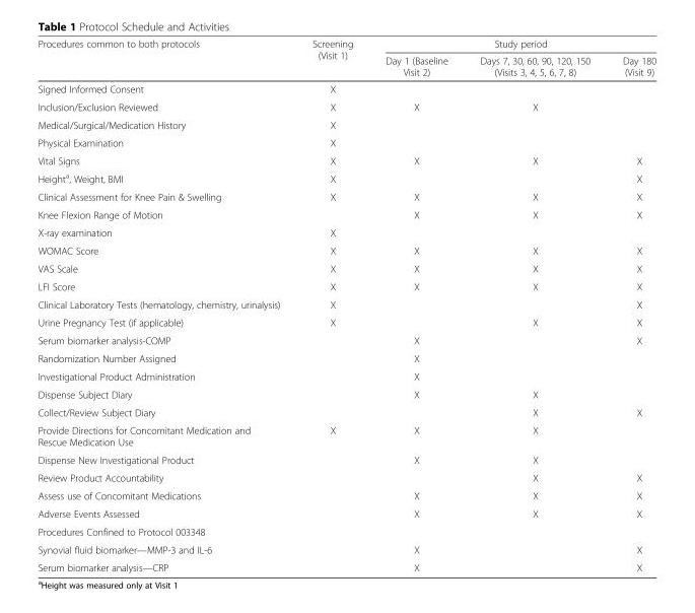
<table><thead><tr><td rowspan="2">Procedures common to both protocols</td><td rowspan="2">Screening (Visit 1)</td><td colspan="3">Study period</td></tr><tr><td>Day 1 (Baseline Visit 2)</td><td>Days 7, 30, 60, 90, 120, 150 (Visits 3, 4, 5, 6, 7, 8)</td><td>Day 180 (Visit 9)</td></tr></thead><tbody><tr><td>Signed Informed Consent</td><td>X</td><td></td><td></td><td></td></tr><tr><td>Inclusion/Exclusion Reviewed</td><td>X</td><td>X</td><td>X</td><td></td></tr><tr><td>Medical/Surgical/Medication History</td><td>X</td><td></td><td></td><td></td></tr><tr><td>Physical Examination</td><td>X</td><td></td><td></td><td></td></tr><tr><td>Vital Signs</td><td>X</td><td>X</td><td>X</td><td>X</td></tr><tr><td>Height<sup>a</sup>, Weight, BMI</td><td>X</td><td></td><td></td><td>X</td></tr><tr><td>Clinical Assessment for Knee Pain &amp; Swelling</td><td>X</td><td>X</td><td>X</td><td>X</td></tr><tr><td>Knee Flexion Range of Motion</td><td></td><td>X</td><td>X</td><td>X</td></tr><tr><td>X-ray examination</td><td>X</td><td></td><td></td><td></td></tr><tr><td>WOMAC Score</td><td>X</td><td>X</td><td>X</td><td>X</td></tr><tr><td>VAS Scale</td><td>X</td><td>X</td><td>X</td><td>X</td></tr><tr><td>LFI Score</td><td>X</td><td>X</td><td>X</td><td>X</td></tr><tr><td>Clinical Laboratory Tests (hematology, chemistry, urinalysis)</td><td>X</td><td></td><td></td><td>X</td></tr><tr><td>Urine Pregnancy Test (if applicable)</td><td>X</td><td></td><td>X</td><td>X</td></tr><tr><td>Serum biomarker analysis-COMP</td><td></td><td>X</td><td></td><td>X</td></tr><tr><td>Randomization Number Assigned</td><td></td><td>X</td><td></td><td></td></tr><tr><td>Investigational Product Administration</td><td></td><td>X</td><td></td><td></td></tr><tr><td>Dispense Subject Diary</td><td></td><td>X</td><td>X</td><td></td></tr><tr><td>Collect/Review Subject Diary</td><td></td><td></td><td>X</td><td>X</td></tr><tr><td>Provide Directions for Concomitant Medication and Rescue Medication Use</td><td>X</td><td>X</td><td>X</td><td></td></tr><tr><td>Dispense New Investigational Product</td><td></td><td>X</td><td>X</td><td></td></tr><tr><td>Review Product Accountability</td><td></td><td></td><td>X</td><td>X</td></tr><tr><td>Assess use of Concomitant Medications</td><td></td><td>X</td><td>X</td><td>X</td></tr><tr><td>Adverse Events Assessed</td><td></td><td>X</td><td>X</td><td>X</td></tr><tr><td colspan="5">Procedures Confined to Protocol 003348</td></tr><tr><td>Synovial fluid biomarker—MMP-3 and IL-6</td><td></td><td>X</td><td></td><td>X</td></tr><tr><td>Serum biomarker analysis—CRP</td><td></td><td>X</td><td></td><td>X</td></tr></tbody></table>